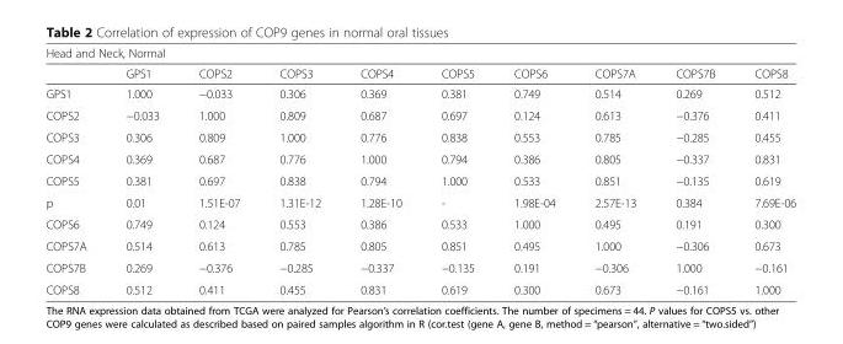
<table><thead><tr><td colspan="10">Head and Neck, Normal</td></tr><tr><td></td><td>GPS1</td><td>COPS2</td><td>COPS3</td><td>COPS4</td><td>COPS5</td><td>COPS6</td><td>COPS7A</td><td>COPS7B</td><td>COPS8</td></tr></thead><tbody><tr><td>GPS1</td><td>1.000</td><td>−0.033</td><td>0.306</td><td>0.369</td><td>0.381</td><td>0.749</td><td>0.514</td><td>0.269</td><td>0.512</td></tr><tr><td>COPS2</td><td>−0.033</td><td>1.000</td><td>0.809</td><td>0.687</td><td>0.697</td><td>0.124</td><td>0.613</td><td>−0.376</td><td>0.411</td></tr><tr><td>COPS3</td><td>0.306</td><td>0.809</td><td>1.000</td><td>0.776</td><td>0.838</td><td>0.553</td><td>0.785</td><td>−0.285</td><td>0.455</td></tr><tr><td>COPS4</td><td>0.369</td><td>0.687</td><td>0.776</td><td>1.000</td><td>0.794</td><td>0.386</td><td>0.805</td><td>−0.337</td><td>0.831</td></tr><tr><td>COPS5</td><td>0.381</td><td>0.697</td><td>0.838</td><td>0.794</td><td>1.000</td><td>0.533</td><td>0.851</td><td>−0.135</td><td>0.619</td></tr><tr><td>p</td><td>0.01</td><td>1.51E-07</td><td>1.31E-12</td><td>1.28E-10</td><td>-</td><td>1.98E-04</td><td>2.57E-13</td><td>0.384</td><td>7.69E-06</td></tr><tr><td>COPS6</td><td>0.749</td><td>0.124</td><td>0.553</td><td>0.386</td><td>0.533</td><td>1.000</td><td>0.495</td><td>0.191</td><td>0.300</td></tr><tr><td>COPS7A</td><td>0.514</td><td>0.613</td><td>0.785</td><td>0.805</td><td>0.851</td><td>0.495</td><td>1.000</td><td>−0.306</td><td>0.673</td></tr><tr><td>COPS7B</td><td>0.269</td><td>−0.376</td><td>−0.285</td><td>−0.337</td><td>−0.135</td><td>0.191</td><td>−0.306</td><td>1.000</td><td>−0.161</td></tr><tr><td>COPS8</td><td>0.512</td><td>0.411</td><td>0.455</td><td>0.831</td><td>0.619</td><td>0.300</td><td>0.673</td><td>−0.161</td><td>1.000</td></tr></tbody></table>